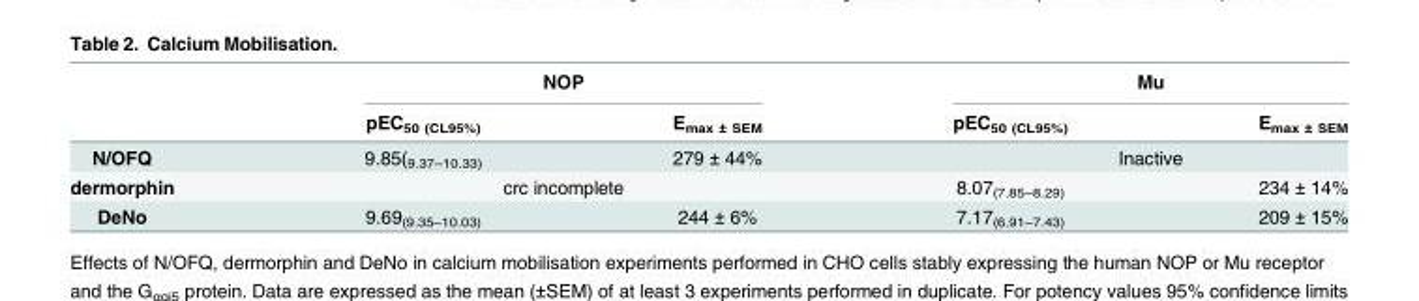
<table><thead><tr><td rowspan="2"></td><td colspan="2">NOP</td><td colspan="2">Mu</td></tr><tr><td>pEC<sub>50 (CL95%)</sub></td><td>E<sub>max ± SEM</sub></td><td>pEC<sub>50 (CL95%)</sub></td><td>E<sub>max ± SEM</sub></td></tr></thead><tbody><tr><td>N/OFQ</td><td>9.85(<sub>9.37–10.33)</sub></td><td>279 ± 44%</td><td colspan="2">Inactive</td></tr><tr><td>dermorphin</td><td colspan="2">crc incomplete</td><td>8.07<sub>(7.85–8.29)</sub></td><td>234 ± 14%</td></tr><tr><td>DeNo</td><td>9.69<sub>(9.35–10.03)</sub></td><td>244 ± 6%</td><td>7.17<sub>(6.91–7.43)</sub></td><td>209 ± 15%</td></tr></tbody></table>